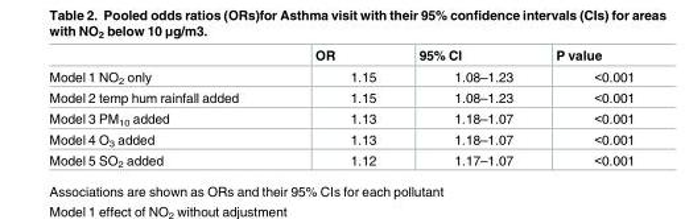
<table><thead><tr><td></td><td>OR</td><td>95% CI</td><td>P value</td></tr></thead><tbody><tr><td>Model 1 NO<sub>2</sub> only</td><td>1.15</td><td>1.08–1.23</td><td>&lt;0.001</td></tr><tr><td>Model 2 temp hum rainfall added</td><td>1.15</td><td>1.08–1.23</td><td>&lt;0.001</td></tr><tr><td>Model 3 PM<sub>10</sub> added</td><td>1.13</td><td>1.18–1.07</td><td>&lt;0.001</td></tr><tr><td>Model 4 O<sub>3</sub> added</td><td>1.13</td><td>1.18–1.07</td><td>&lt;0.001</td></tr><tr><td>Model 5 SO<sub>2</sub> added</td><td>1.12</td><td>1.17–1.07</td><td>&lt;0.001</td></tr></tbody></table>